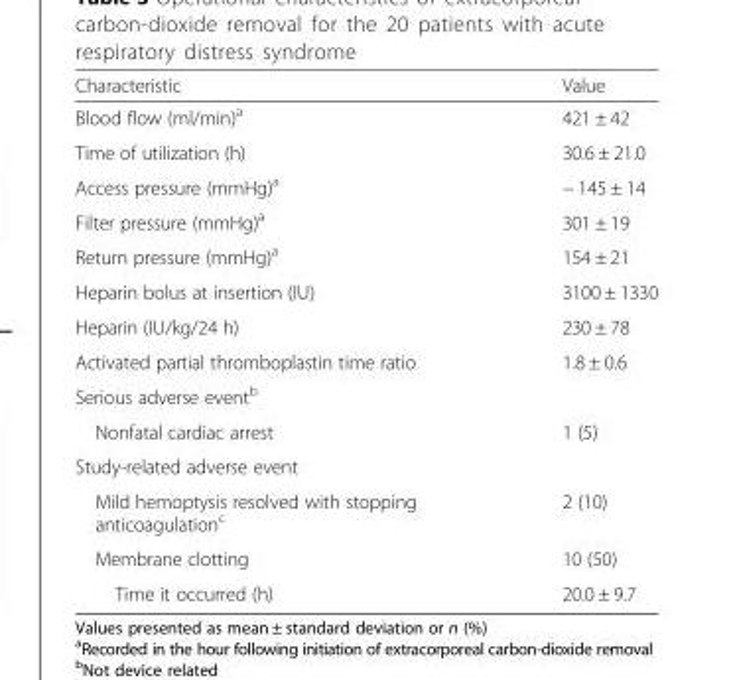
<table><thead><tr><td>Characteristic</td><td>Value</td></tr></thead><tbody><tr><td>Blood flow (ml/min)<sup>a</sup></td><td>421 ± 42</td></tr><tr><td>Time of utilization (h)</td><td>30.6 ± 21.0</td></tr><tr><td>Access pressure (mmHg)<sup>a</sup></td><td>− 145 ± 14</td></tr><tr><td>Filter pressure (mmHg)<sup>a</sup></td><td>301 ± 19</td></tr><tr><td>Return pressure (mmHg)<sup>a</sup></td><td>154 ± 21</td></tr><tr><td>Heparin bolus at insertion (IU)</td><td>3100 ± 1330</td></tr><tr><td>Heparin (IU/kg/24 h)</td><td>230 ± 78</td></tr><tr><td>Activated partial thromboplastin time ratio</td><td>1.8 ± 0.6</td></tr><tr><td colspan="2">Serious adverse event<sup>b</sup></td></tr><tr><td>Nonfatal cardiac arrest</td><td>1 (5)</td></tr><tr><td colspan="2">Study-related adverse event</td></tr><tr><td>Mild hemoptysis resolved with stopping anticoagulation<sup>c</sup></td><td>2 (10)</td></tr><tr><td>Membrane clotting</td><td>10 (50)</td></tr><tr><td>Time it occurred (h)</td><td>20.0 ± 9.7</td></tr></tbody></table>